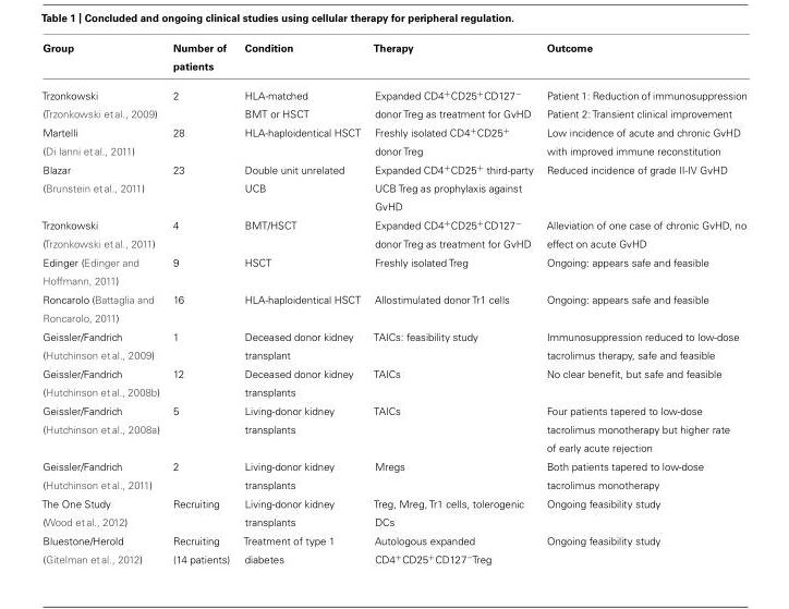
<table><thead><tr><td>Group</td><td>Number of patients</td><td>Condition</td><td>Therapy</td><td>Outcome</td></tr></thead><tbody><tr><td>Trzonkowski (Trzonkowski et al., 2009)</td><td>2</td><td>HLA-matched BMT or HSCT</td><td>Expanded CD4<sup>+</sup>CD25<sup>+</sup>CD127<sup>−</sup> donor Treg as treatment for GvHD</td><td>Patient 1: Reduction of immunosuppression Patient 2: Transient clinical improvement</td></tr><tr><td>Martelli (Di Ianni et al., 2011)</td><td>28</td><td>HLA-haploidentical HSCT</td><td>Freshly isolated CD4<sup>+</sup>CD25<sup>+</sup> donor Treg</td><td>Low incidence of acute and chronic GvHD with improved immune reconstitution</td></tr><tr><td>Blazar (Brunstein et al., 2011)</td><td>23</td><td>Double unit unrelated UCB</td><td>Expanded CD4<sup>+</sup>CD25<sup>+</sup> third-party UCB Treg as prophylaxis against GvHD</td><td>Reduced incidence of grade II-IV GvHD</td></tr><tr><td>Trzonkowski (Trzonkowski et al., 2011)</td><td>4</td><td>BMT/HSCT</td><td>Expanded CD4<sup>+</sup>CD25<sup>+</sup>CD127<sup>−</sup> donor Treg as treatment for GvHD</td><td>Alleviation of one case of chronic GvHD, no effect on acute GvHD</td></tr><tr><td>Edinger (Edinger and Hoffmann, 2011)</td><td>9</td><td>HSCT</td><td>Freshly isolated Treg</td><td>Ongoing: appears safe and feasible</td></tr><tr><td>Roncarolo (Battaglia and Roncarolo, 2011)</td><td>16</td><td>HLA-haploidentical HSCT</td><td>Allostimulated donor Tr1 cells</td><td>Ongoing: appears safe and feasible</td></tr><tr><td>Geissler/Fandrich (Hutchinson et al., 2009)</td><td>1</td><td>Deceased donor kidney transplant</td><td>TAICs: feasibility study</td><td>Immunosuppression reduced to low-dose tacrolimus therapy, safe and feasible</td></tr><tr><td>Geissler/Fandrich (Hutchinson et al., 2008b)</td><td>12</td><td>Deceased donor kidney transplants</td><td>TAICs</td><td>No clear benefit, but safe and feasible</td></tr><tr><td>Geissler/Fandrich (Hutchinson et al., 2008a)</td><td>5</td><td>Living-donor kidney transplants</td><td>TAICs</td><td>Four patients tapered to low-dose tacrolimus monotherapy but higher rate of early acute rejection</td></tr><tr><td>Geissler/Fandrich (Hutchinson et al., 2011)</td><td>2</td><td>Living-donor kidney transplants</td><td>Mregs</td><td>Both patients tapered to low-dose tacrolimus monotherapy</td></tr><tr><td>The One Study (Wood et al., 2012)</td><td>Recruiting</td><td>Living-donor kidney transplants</td><td>Treg, Mreg, Tr1 cells, tolerogenic DCs</td><td>Ongoing feasibility study</td></tr><tr><td>Bluestone/Herold (Gitelman et al., 2012)</td><td>Recruiting (14 patients)</td><td>Treatment of type 1 diabetes</td><td>Autologous expanded CD4<sup>+</sup>CD25<sup>+</sup>CD127<sup>−</sup>Treg</td><td>Ongoing feasibility study</td></tr></tbody></table>